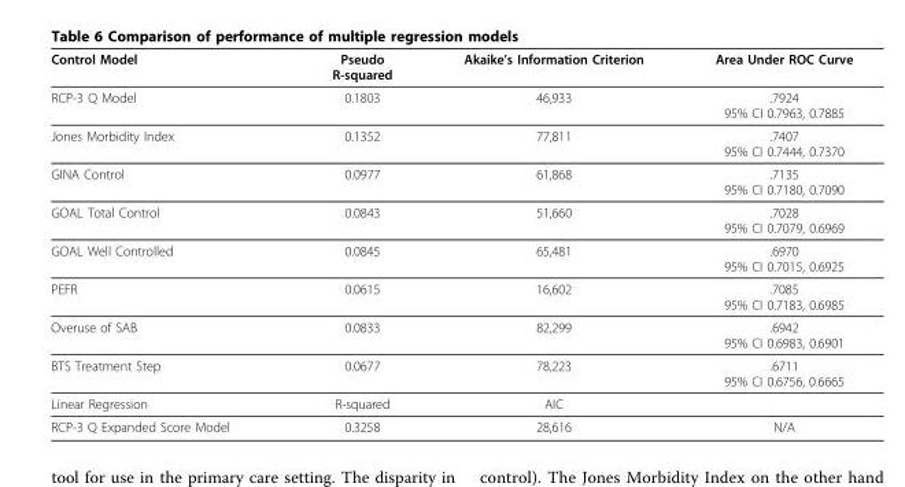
<table><thead><tr><td>Control Model</td><td>Pseudo R-squared</td><td>Akaike’s Information Criterion</td><td>Area Under ROC Curve</td></tr></thead><tbody><tr><td>RCP-3 Q Model</td><td>0.1803</td><td>46,933</td><td>.7924 95% CI 0.7963, 0.7885</td></tr><tr><td>Jones Morbidity Index</td><td>0.1352</td><td>77,811</td><td>.7407 95% CI 0.7444, 0.7370</td></tr><tr><td>GINA Control</td><td>0.0977</td><td>61,868</td><td>.7135 95% CI 0.7180, 0.7090</td></tr><tr><td>GOAL Total Control</td><td>0.0843</td><td>51,660</td><td>.7028 95% CI 0.7079, 0.6969</td></tr><tr><td>GOAL Well Controlled</td><td>0.0845</td><td>65,481</td><td>.6970 95% CI 0.7015, 0.6925</td></tr><tr><td>PEFR</td><td>0.0615</td><td>16,602</td><td>.7085 95% CI 0.7183, 0.6985</td></tr><tr><td>Overuse of SAB</td><td>0.0833</td><td>82,299</td><td>.6942 95% CI 0.6983, 0.6901</td></tr><tr><td>BTS Treatment Step</td><td>0.0677</td><td>78,223</td><td>.6711 95% CI 0.6756, 0.6665</td></tr><tr><td>Linear Regression</td><td>R-squared</td><td>AIC</td><td></td></tr><tr><td>RCP-3 Q Expanded Score Model</td><td>0.3258</td><td>28,616</td><td>N/A</td></tr></tbody></table>